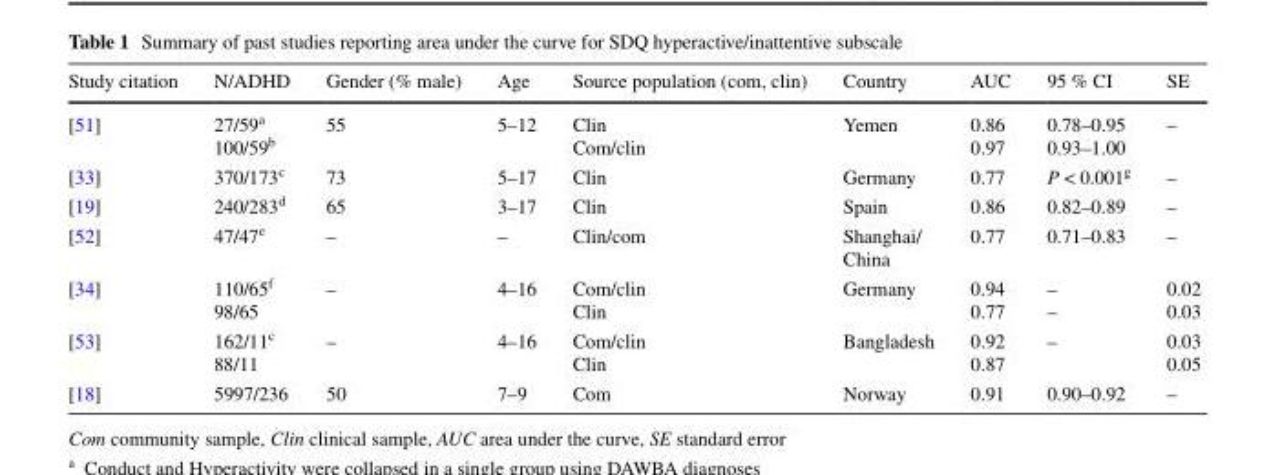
<table><thead><tr><td>Study citation</td><td>N/ADHD</td><td>Gender (% male)</td><td>Age</td><td>Source population (com, clin)</td><td>Country</td><td>AUC</td><td>95 % CI</td><td>SE</td></tr></thead><tbody><tr><td>[51]</td><td>27/59<sup>a</sup> 100/59<sup>b</sup></td><td>55</td><td>5–12</td><td>Clin Com/clin</td><td>Yemen</td><td>0.86 0.97</td><td>0.78–0.95 0.93–1.00</td><td>–</td></tr><tr><td>[33]</td><td>370/173<sup>c</sup></td><td>73</td><td>5–17</td><td>Clin</td><td>Germany</td><td>0.77</td><td>P &lt; 0.001<sup>g</sup></td><td>–</td></tr><tr><td>[19]</td><td>240/283<sup>d</sup></td><td>65</td><td>3–17</td><td>Clin</td><td>Spain</td><td>0.86</td><td>0.82–0.89</td><td>–</td></tr><tr><td>[52]</td><td>47/47<sup>e</sup></td><td>–</td><td>–</td><td>Clin/com</td><td>Shanghai/ China</td><td>0.77</td><td>0.71–0.83</td><td>–</td></tr><tr><td>[34]</td><td>110/65<sup>f</sup> 98/65</td><td>–</td><td>4–16</td><td>Com/clin Clin</td><td>Germany</td><td>0.94 0.77</td><td>– –</td><td>0.02 0.03</td></tr><tr><td>[53]</td><td>162/11<sup>c</sup> 88/11</td><td>–</td><td>4–16</td><td>Com/clin Clin</td><td>Bangladesh</td><td>0.92 0.87</td><td>–</td><td>0.03 0.05</td></tr><tr><td>[18]</td><td>5997/236</td><td>50</td><td>7–9</td><td>Com</td><td>Norway</td><td>0.91</td><td>0.90–0.92</td><td>–</td></tr></tbody></table>